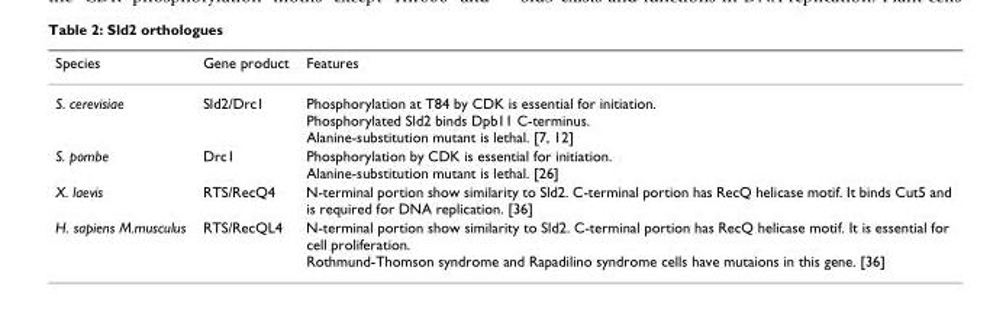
<table><thead><tr><td>Species</td><td>Gene product</td><td>Features</td></tr></thead><tbody><tr><td>S. cerevisiae</td><td>Sld2/Drc1</td><td>Phosphorylation at T84 by CDK is essential for initiation. Phosphorylated Sld2 binds Dpb11 C-terminus. Alanine-substitution mutant is lethal. [7, 12]</td></tr><tr><td>S. pombe</td><td>Drc1</td><td>Phosphorylation by CDK is essential for initiation. Alanine-substitution mutant is lethal. [26]</td></tr><tr><td>X. laevis</td><td>RTS/RecQ4</td><td>N-terminal portion show similarity to Sld2. C-terminal portion has RecQ helicase motif. It binds Cut5 and is required for DNA replication. [36]</td></tr><tr><td>H. sapiens M.musculus</td><td>RTS/RecQL4</td><td>N-terminal portion show similarity to Sld2. C-terminal portion has RecQ helicase motif. It is essential for cell proliferation. Rothmund-Thomson syndrome and Rapadilino syndrome cells have mutaions in this gene. [36]</td></tr></tbody></table>